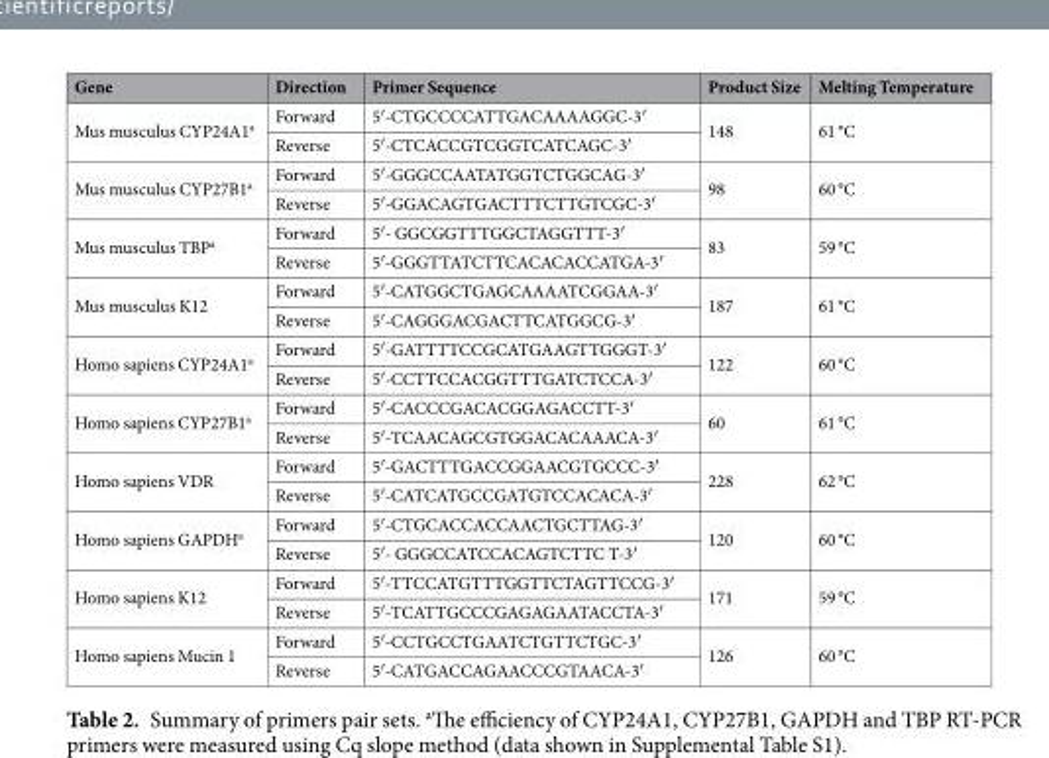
<table><thead><tr><td>Gene</td><td>Direction</td><td>Primer Sequence</td><td>Product Size</td><td>Melting Temperature</td></tr></thead><tbody><tr><td rowspan="2">Mus musculus CYP24A1<sup>a</sup></td><td>Forward</td><td>5′-CTGCCCCATTGACAAAAGGC-3′</td><td rowspan="2">148</td><td rowspan="2">61 °C</td></tr><tr><td>Reverse</td><td>5′-CTCACCGTCGGTCATCAGC-3′</td></tr><tr><td rowspan="2">Mus musculus CYP27B1<sup>a</sup></td><td>Forward</td><td>5′-GGGCCAATATGGTCTGGCAG-3′</td><td rowspan="2">98</td><td rowspan="2">60 °C</td></tr><tr><td>Reverse</td><td>5′-GGACAGTGACTTTCTTGTCGC-3′</td></tr><tr><td rowspan="2">Mus musculus TBP<sup>a</sup></td><td>Forward</td><td>5′- GGCGGTTTGGCTAGGTTT-3′</td><td rowspan="2">83</td><td rowspan="2">59 °C</td></tr><tr><td>Reverse</td><td>5′-GGGTTATCTTCACACACCATGA-3′</td></tr><tr><td rowspan="2">Mus musculus K12</td><td>Forward</td><td>5′-CATGGCTGAGCAAAATCGGAA-3′</td><td rowspan="2">187</td><td rowspan="2">61 °C</td></tr><tr><td>Reverse</td><td>5′-CAGGGACGACTTCATGGCG-3′</td></tr><tr><td rowspan="2">Homo sapiens CYP24A1<sup>a</sup></td><td>Forward</td><td>5′-GATTTTCCGCATGAAGTTGGGT-3′</td><td rowspan="2">122</td><td rowspan="2">60 °C</td></tr><tr><td>Reverse</td><td>5′-CCTTCCACGGTTTGATCTCCA-3′</td></tr><tr><td rowspan="2">Homo sapiens CYP27B1<sup>a</sup></td><td>Forward</td><td>5′-CACCCGACACGGAGACCTT-3′</td><td rowspan="2">60</td><td rowspan="2">61 °C</td></tr><tr><td>Reverse</td><td>5′-TCAACAGCGTGGACACAAACA-3′</td></tr><tr><td rowspan="2">Homo sapiens VDR</td><td>Forward</td><td>5′-GACTTTGACCGGAACGTGCCC-3′</td><td rowspan="2">228</td><td rowspan="2">62 °C</td></tr><tr><td>Reverse</td><td>5′-CATCATGCCGATGTCCACACA-3′</td></tr><tr><td rowspan="2">Homo sapiens GAPDH<sup>a</sup></td><td>Forward</td><td>5′-CTGCACCACCAACTGCTTAG-3′</td><td rowspan="2">120</td><td rowspan="2">60 °C</td></tr><tr><td>Reverse</td><td>5′- GGGCCATCCACAGTCTTC T-3′</td></tr><tr><td rowspan="2">Homo sapiens K12</td><td>Forward</td><td>5′-TTCCATGTTTGGTTCTAGTTCCG-3′</td><td rowspan="2">171</td><td rowspan="2">59 °C</td></tr><tr><td>Reverse</td><td>5′-TCATTGCCCGAGAGAATACCTA-3′</td></tr><tr><td rowspan="2">Homo sapiens Mucin 1</td><td>Forward</td><td>5′-CCTGCCTGAATCTGTTCTGC-3′</td><td rowspan="2">126</td><td rowspan="2">60 °C</td></tr><tr><td>Reverse</td><td>5′-CATGACCAGAACCCGTAACA-3′</td></tr></tbody></table>